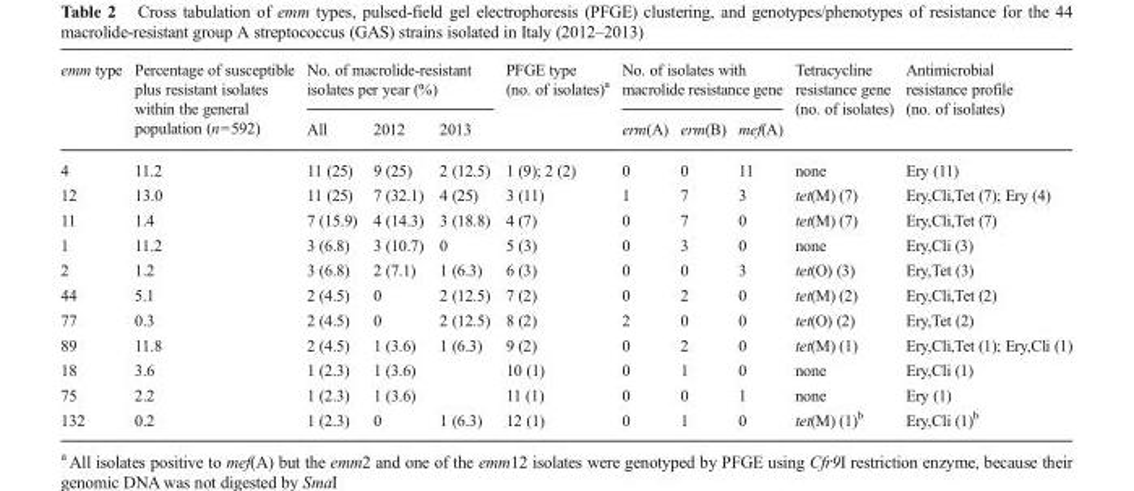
<table><thead><tr><td rowspan="2">emm type</td><td rowspan="2">Percentage of susceptible plus resistant isolates within the general population (n=592)</td><td colspan="3">No. of macrolide-resistant isolates per year (%)</td><td rowspan="2">PFGE type (no. of isolates)<sup>a</sup></td><td colspan="3">No. of isolates with macrolide resistance gene</td><td rowspan="2">Tetracycline resistance gene (no. of isolates)</td><td rowspan="2">Antimicrobial resistance profile (no. of isolates)</td></tr><tr><td>All</td><td>2012</td><td>2013</td><td>erm(A)</td><td>erm(B)</td><td>mef(A)</td></tr></thead><tbody><tr><td>4</td><td>11.2</td><td>11 (25)</td><td>9 (25)</td><td>2 (12.5)</td><td>1 (9); 2 (2)</td><td>0</td><td>0</td><td>11</td><td>none</td><td>Ery (11)</td></tr><tr><td>12</td><td>13.0</td><td>11 (25)</td><td>7 (32.1)</td><td>4 (25)</td><td>3 (11)</td><td>1</td><td>7</td><td>3</td><td>tet(M) (7)</td><td>Ery,Cli,Tet (7); Ery (4)</td></tr><tr><td>11</td><td>1.4</td><td>7 (15.9)</td><td>4 (14.3)</td><td>3 (18.8)</td><td>4 (7)</td><td>0</td><td>7</td><td>0</td><td>tet(M) (7)</td><td>Ery,Cli,Tet (7)</td></tr><tr><td>1</td><td>11.2</td><td>3 (6.8)</td><td>3 (10.7)</td><td>0</td><td>5 (3)</td><td>0</td><td>3</td><td>0</td><td>none</td><td>Ery,Cli (3)</td></tr><tr><td>2</td><td>1.2</td><td>3 (6.8)</td><td>2 (7.1)</td><td>1 (6.3)</td><td>6 (3)</td><td>0</td><td>0</td><td>3</td><td>tet(O) (3)</td><td>Ery,Tet (3)</td></tr><tr><td>44</td><td>5.1</td><td>2 (4.5)</td><td>0</td><td>2 (12.5)</td><td>7 (2)</td><td>0</td><td>2</td><td>0</td><td>tet(M) (2)</td><td>Ery,Cli,Tet (2)</td></tr><tr><td>77</td><td>0.3</td><td>2 (4.5)</td><td>0</td><td>2 (12.5)</td><td>8 (2)</td><td>2</td><td>0</td><td>0</td><td>tet(O) (2)</td><td>Ery,Tet (2)</td></tr><tr><td>89</td><td>11.8</td><td>2 (4.5)</td><td>1 (3.6)</td><td>1 (6.3)</td><td>9 (2)</td><td>0</td><td>2</td><td>0</td><td>tet(M) (1)</td><td>Ery,Cli,Tet (1); Ery,Cli (1)</td></tr><tr><td>18</td><td>3.6</td><td>1 (2.3)</td><td>1 (3.6)</td><td></td><td>10 (1)</td><td>0</td><td>1</td><td>0</td><td>none</td><td>Ery,Cli (1)</td></tr><tr><td>75</td><td>2.2</td><td>1 (2.3)</td><td>1 (3.6)</td><td></td><td>11 (1)</td><td>0</td><td>0</td><td>1</td><td>none</td><td>Ery (1)</td></tr><tr><td>132</td><td>0.2</td><td>1 (2.3)</td><td>0</td><td>1 (6.3)</td><td>12 (1)</td><td>0</td><td>1</td><td>0</td><td>tet(M) (1)<sup>b</sup></td><td>Ery,Cli (1)<sup>b</sup></td></tr></tbody></table>